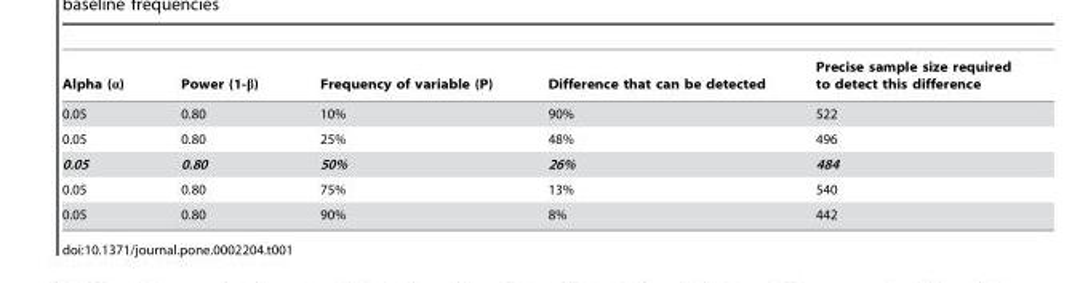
<table><thead><tr><td>Alpha (α)</td><td>Power (1-β)</td><td>Frequency of variable (P)</td><td>Difference that can be detected</td><td>Precise sample size required to detect this difference</td></tr></thead><tbody><tr><td>0.05</td><td>0.80</td><td>10%</td><td>90%</td><td>522</td></tr><tr><td>0.05</td><td>0.80</td><td>25%</td><td>48%</td><td>496</td></tr><tr><td>0.05</td><td>0.80</td><td>50%</td><td>26%</td><td>484</td></tr><tr><td>0.05</td><td>0.80</td><td>75%</td><td>13%</td><td>540</td></tr><tr><td>0.05</td><td>0.80</td><td>90%</td><td>8%</td><td>442</td></tr></tbody></table>